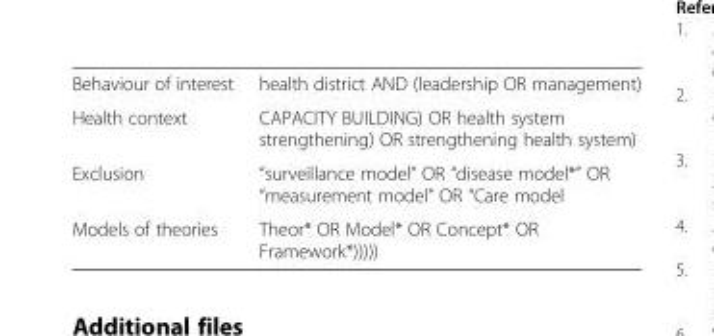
<table><tbody><tr><td>Behaviour of interest</td><td>health district AND (leadership OR management)</td></tr><tr><td>Health context</td><td>CAPACITY BUILDING) OR health system strengthening) OR strengthening health system)</td></tr><tr><td>Exclusion</td><td>“surveillance model” OR “disease model*” OR “measurement model” OR “Care model</td></tr><tr><td>Models of theories</td><td>Theor* OR Model* OR Concept* OR Framework*)))))</td></tr></tbody></table>